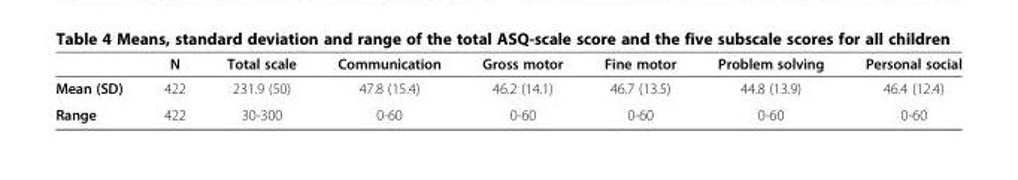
<table><thead><tr><td></td><td>N</td><td>Total scale</td><td>Communication</td><td>Gross motor</td><td>Fine motor</td><td>Problem solving</td><td>Personal social</td></tr></thead><tbody><tr><td>Mean (SD)</td><td>422</td><td>231.9 (50)</td><td>47.8 (15.4)</td><td>46.2 (14.1)</td><td>46.7 (13.5)</td><td>44.8 (13.9)</td><td>46.4 (12.4)</td></tr><tr><td>Range</td><td>422</td><td>30-300</td><td>0-60</td><td>0-60</td><td>0-60</td><td>0-60</td><td>0-60</td></tr></tbody></table>